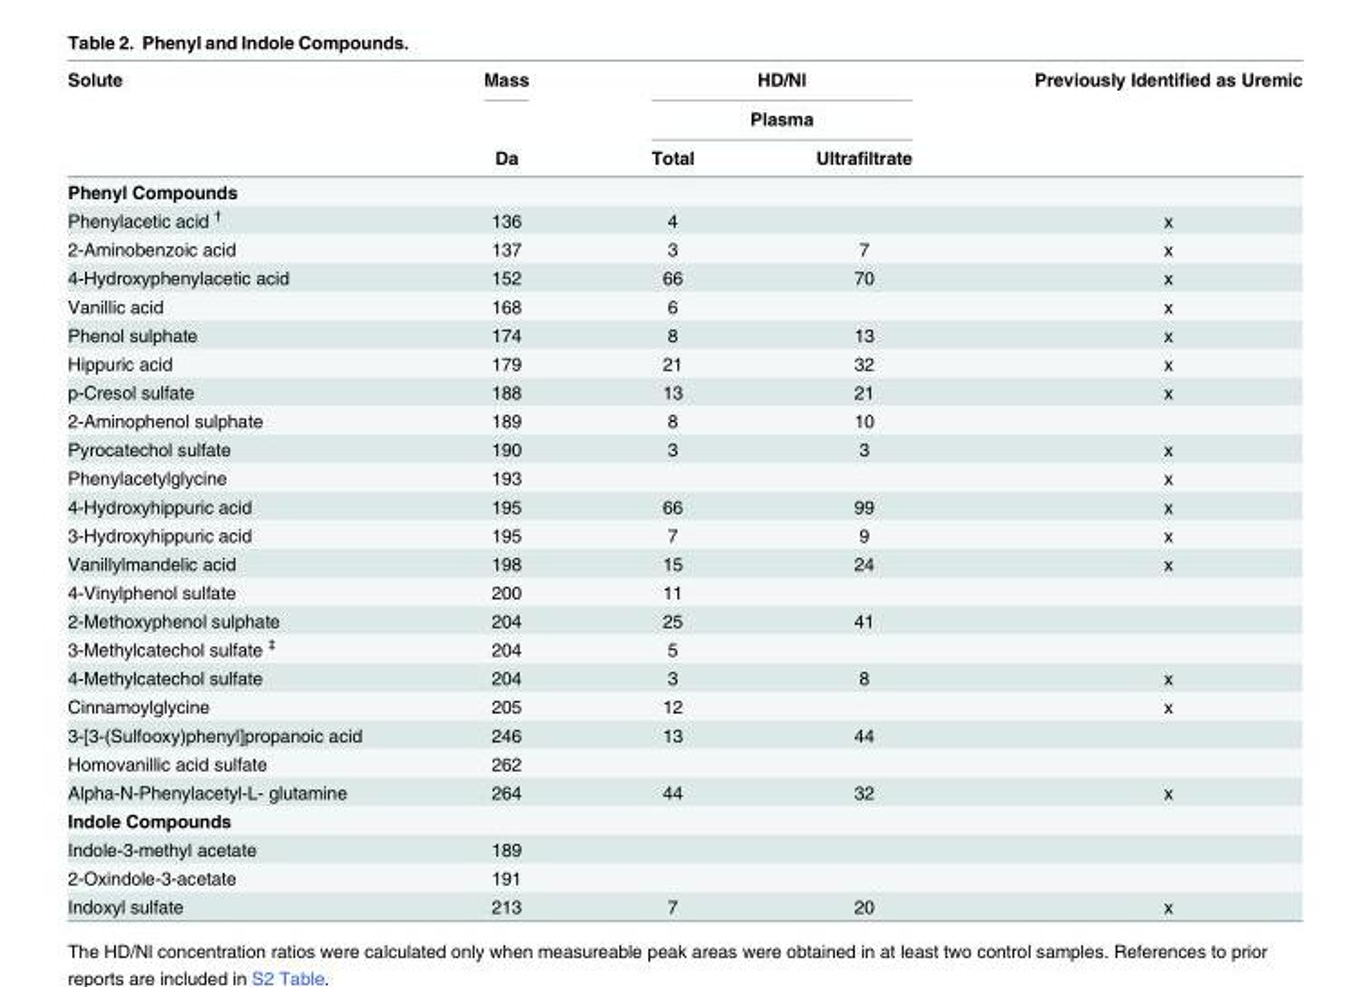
<table><thead><tr><td rowspan="3">Solute</td><td rowspan="3">Mass Da</td><td rowspan="2" colspan="2">HD/Nl Plasma</td><td rowspan="3">Previously Identified as Uremic</td></tr><tr></tr><tr><td>Total</td><td>Ultrafiltrate</td></tr></thead><tbody><tr><td colspan="5">Phenyl Compounds</td></tr><tr><td>Phenylacetic acid <sup>†</sup></td><td>136</td><td>4</td><td></td><td>x</td></tr><tr><td>2-Aminobenzoic acid</td><td>137</td><td>3</td><td>7</td><td>x</td></tr><tr><td>4-Hydroxyphenylacetic acid</td><td>152</td><td>66</td><td>70</td><td>x</td></tr><tr><td>Vanillic acid</td><td>168</td><td>6</td><td></td><td>x</td></tr><tr><td>Phenol sulphate</td><td>174</td><td>8</td><td>13</td><td>x</td></tr><tr><td>Hippuric acid</td><td>179</td><td>21</td><td>32</td><td>x</td></tr><tr><td>p-Cresol sulfate</td><td>188</td><td>13</td><td>21</td><td>x</td></tr><tr><td>2-Aminophenol sulphate</td><td>189</td><td>8</td><td>10</td><td></td></tr><tr><td>Pyrocatechol sulfate</td><td>190</td><td>3</td><td>3</td><td>x</td></tr><tr><td>Phenylacetylglycine</td><td>193</td><td></td><td></td><td>x</td></tr><tr><td>4-Hydroxyhippuric acid</td><td>195</td><td>66</td><td>99</td><td>x</td></tr><tr><td>3-Hydroxyhippuric acid</td><td>195</td><td>7</td><td>9</td><td>x</td></tr><tr><td>Vanillylmandelic acid</td><td>198</td><td>15</td><td>24</td><td>x</td></tr><tr><td>4-Vinylphenol sulfate</td><td>200</td><td>11</td><td></td><td></td></tr><tr><td>2-Methoxyphenol sulphate</td><td>204</td><td>25</td><td>41</td><td></td></tr><tr><td>3-Methylcatechol sulfate <sup>‡</sup></td><td>204</td><td>5</td><td></td><td></td></tr><tr><td>4-Methylcatechol sulfate</td><td>204</td><td>3</td><td>8</td><td>x</td></tr><tr><td>Cinnamoylglycine</td><td>205</td><td>12</td><td></td><td>x</td></tr><tr><td>3-[3-(Sulfooxy)phenyl]propanoic acid</td><td>246</td><td>13</td><td>44</td><td></td></tr><tr><td>Homovanillic acid sulfate</td><td>262</td><td></td><td></td><td></td></tr><tr><td>Alpha-N-Phenylacetyl-L- glutamine</td><td>264</td><td>44</td><td>32</td><td>x</td></tr><tr><td colspan="5">Indole Compounds</td></tr><tr><td>Indole-3-methyl acetate</td><td>189</td><td></td><td></td><td></td></tr><tr><td>2-Oxindole-3-acetate</td><td>191</td><td></td><td></td><td></td></tr><tr><td>Indoxyl sulfate</td><td>213</td><td>7</td><td>20</td><td>x</td></tr></tbody></table>